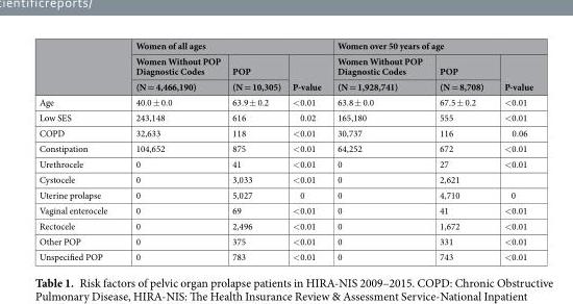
<table><thead><tr><td rowspan="3"></td><td colspan="3">Women of all ages</td><td colspan="3">Women over 50 years of age</td></tr><tr><td rowspan="2">Women Without POP Diagnostic Codes (N = 4,466,190)</td><td rowspan="2">POP (N = 10,305)</td><td rowspan="2">P-value</td><td rowspan="2">Women Without POP Diagnostic Codes (N = 1,928,741)</td><td rowspan="2">POP (N = 8,708)</td><td rowspan="2">P-value</td></tr><tr></tr></thead><tbody><tr><td>Age</td><td>40.0 ± 0.0</td><td>63.9 ± 0.2</td><td>&lt;0.01</td><td>63.8 ± 0.0</td><td>67.5 ± 0.2</td><td>&lt;0.01</td></tr><tr><td>Low SES</td><td>243,148</td><td>616</td><td>0.02</td><td>165,180</td><td>555</td><td>&lt;0.01</td></tr><tr><td>COPD</td><td>32,633</td><td>118</td><td>&lt;0.01</td><td>30,737</td><td>116</td><td>0.06</td></tr><tr><td>Constipation</td><td>104,652</td><td>875</td><td>&lt;0.01</td><td>64,252</td><td>672</td><td>&lt;0.01</td></tr><tr><td>Urethrocele</td><td>0</td><td>41</td><td>&lt;0.01</td><td>0</td><td>27</td><td>&lt;0.01</td></tr><tr><td>Cystocele</td><td>0</td><td>3,033</td><td>&lt;0.01</td><td>0</td><td>2,621</td><td></td></tr><tr><td>Uterine prolapse</td><td>0</td><td>5,027</td><td>0</td><td>0</td><td>4,710</td><td>0</td></tr><tr><td>Vaginal enterocele</td><td>0</td><td>69</td><td>&lt;0.01</td><td>0</td><td>41</td><td>&lt;0.01</td></tr><tr><td>Rectocele</td><td>0</td><td>2,496</td><td>&lt;0.01</td><td>0</td><td>1,672</td><td>&lt;0.01</td></tr><tr><td>Other POP</td><td>0</td><td>375</td><td>&lt;0.01</td><td>0</td><td>331</td><td>&lt;0.01</td></tr><tr><td>Unspecified POP</td><td>0</td><td>783</td><td>&lt;0.01</td><td>0</td><td>743</td><td>&lt;0.01</td></tr></tbody></table>